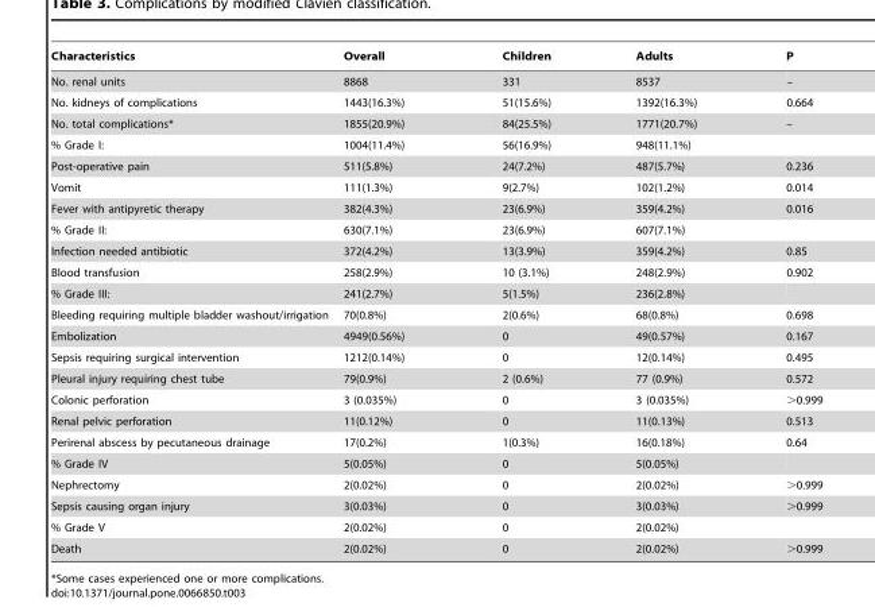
<table><thead><tr><td>Characteristics</td><td>Overall</td><td>Children</td><td>Adults</td><td>P</td></tr></thead><tbody><tr><td>No. renal units</td><td>8868</td><td>331</td><td>8537</td><td>–</td></tr><tr><td>No. kidneys of complications</td><td>1443(16.3%)</td><td>51(15.6%)</td><td>1392(16.3%)</td><td>0.664</td></tr><tr><td>No. total complications*</td><td>1855(20.9%)</td><td>84(25.5%)</td><td>1771(20.7%)</td><td>–</td></tr><tr><td>% Grade I:</td><td>1004(11.4%)</td><td>56(16.9%)</td><td>948(11.1%)</td><td></td></tr><tr><td>Post-operative pain</td><td>511(5.8%)</td><td>24(7.2%)</td><td>487(5.7%)</td><td>0.236</td></tr><tr><td>Vomit</td><td>111(1.3%)</td><td>9(2.7%)</td><td>102(1.2%)</td><td>0.014</td></tr><tr><td>Fever with antipyretic therapy</td><td>382(4.3%)</td><td>23(6.9%)</td><td>359(4.2%)</td><td>0.016</td></tr><tr><td>% Grade II:</td><td>630(7.1%)</td><td>23(6.9%)</td><td>607(7.1%)</td><td></td></tr><tr><td>Infection needed antibiotic</td><td>372(4.2%)</td><td>13(3.9%)</td><td>359(4.2%)</td><td>0.85</td></tr><tr><td>Blood transfusion</td><td>258(2.9%)</td><td>10 (3.1%)</td><td>248(2.9%)</td><td>0.902</td></tr><tr><td>% Grade III:</td><td>241(2.7%)</td><td>5(1.5%)</td><td>236(2.8%)</td><td></td></tr><tr><td>Bleeding requiring multiple bladder washout/irrigation</td><td>70(0.8%)</td><td>2(0.6%)</td><td>68(0.8%)</td><td>0.698</td></tr><tr><td>Embolization</td><td>4949(0.56%)</td><td>0</td><td>49(0.57%)</td><td>0.167</td></tr><tr><td>Sepsis requiring surgical intervention</td><td>1212(0.14%)</td><td>0</td><td>12(0.14%)</td><td>0.495</td></tr><tr><td>Pleural injury requiring chest tube</td><td>79(0.9%)</td><td>2 (0.6%)</td><td>77 (0.9%)</td><td>0.572</td></tr><tr><td>Colonic perforation</td><td>3 (0.035%)</td><td>0</td><td>3 (0.035%)</td><td>&gt;0.999</td></tr><tr><td>Renal pelvic perforation</td><td>11(0.12%)</td><td>0</td><td>11(0.13%)</td><td>0.513</td></tr><tr><td>Perirenal abscess by pecutaneous drainage</td><td>17(0.2%)</td><td>1(0.3%)</td><td>16(0.18%)</td><td>0.64</td></tr><tr><td>% Grade IV</td><td>5(0.05%)</td><td>0</td><td>5(0.05%)</td><td></td></tr><tr><td>Nephrectomy</td><td>2(0.02%)</td><td>0</td><td>2(0.02%)</td><td>&gt;0.999</td></tr><tr><td>Sepsis causing organ injury</td><td>3(0.03%)</td><td>0</td><td>3(0.03%)</td><td>&gt;0.999</td></tr><tr><td>% Grade V</td><td>2(0.02%)</td><td>0</td><td>2(0.02%)</td><td></td></tr><tr><td>Death</td><td>2(0.02%)</td><td>0</td><td>2(0.02%)</td><td>&gt;0.999</td></tr></tbody></table>